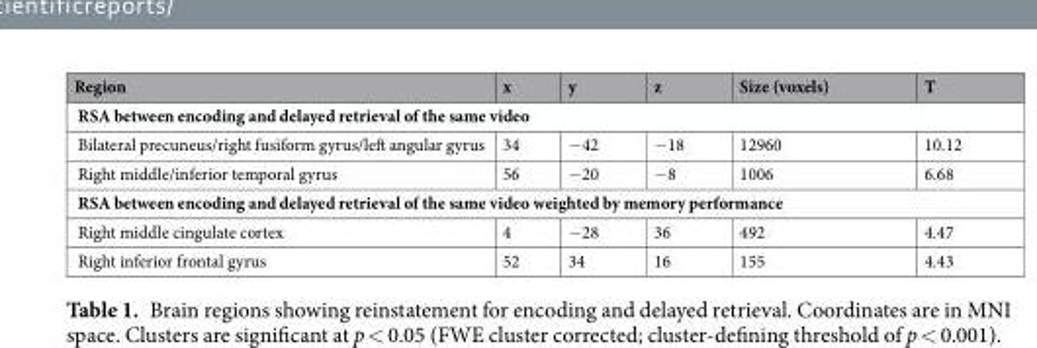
<table><thead><tr><td>Region</td><td>x</td><td>y</td><td>z</td><td>Size (voxels)</td><td>T</td></tr></thead><tbody><tr><td colspan="6">RSA between encoding and delayed retrieval of the same video</td></tr><tr><td>Bilateral precuneus/right fusiform gyrus/left angular gyrus</td><td>34</td><td>−42</td><td>−18</td><td>12960</td><td>10.12</td></tr><tr><td>Right middle/inferior temporal gyrus</td><td>56</td><td>−20</td><td>−8</td><td>1006</td><td>6.68</td></tr><tr><td colspan="6">RSA between encoding and delayed retrieval of the same video weighted by memory performance</td></tr><tr><td>Right middle cingulate cortex</td><td>4</td><td>−28</td><td>36</td><td>492</td><td>4.47</td></tr><tr><td>Right inferior frontal gyrus</td><td>52</td><td>34</td><td>16</td><td>155</td><td>4.43</td></tr></tbody></table>